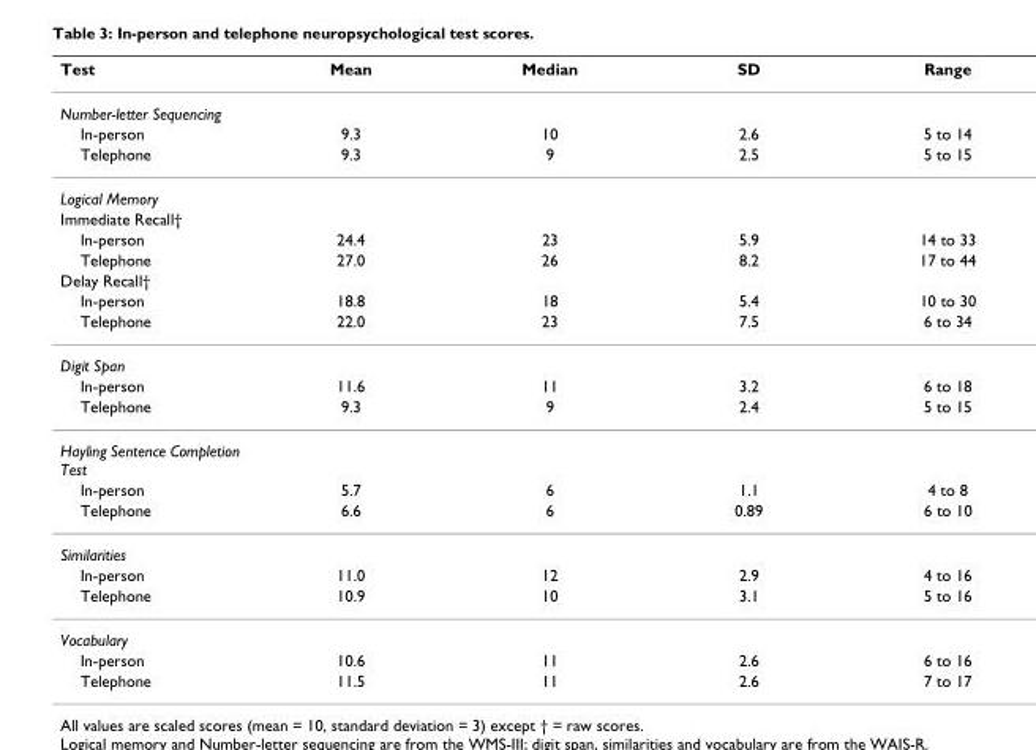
<table><thead><tr><td>Test</td><td>Mean</td><td>Median</td><td>SD</td><td>Range</td></tr></thead><tbody><tr><td colspan="5">Number-letter Sequencing</td></tr><tr><td>In-person</td><td>9.3</td><td>10</td><td>2.6</td><td>5 to 14</td></tr><tr><td>Telephone</td><td>9.3</td><td>9</td><td>2.5</td><td>5 to 15</td></tr><tr><td colspan="5">Logical Memory</td></tr><tr><td colspan="5">Immediate Recall†</td></tr><tr><td>In-person</td><td>24.4</td><td>23</td><td>5.9</td><td>14 to 33</td></tr><tr><td>Telephone</td><td>27.0</td><td>26</td><td>8.2</td><td>17 to 44</td></tr><tr><td colspan="5">Delay Recall†</td></tr><tr><td>In-person</td><td>18.8</td><td>18</td><td>5.4</td><td>10 to 30</td></tr><tr><td>Telephone</td><td>22.0</td><td>23</td><td>7.5</td><td>6 to 34</td></tr><tr><td colspan="5">Digit Span</td></tr><tr><td>In-person</td><td>11.6</td><td>11</td><td>3.2</td><td>6 to 18</td></tr><tr><td>Telephone</td><td>9.3</td><td>9</td><td>2.4</td><td>5 to 15</td></tr><tr><td colspan="5">Hayling Sentence Completion Test</td></tr><tr><td>In-person</td><td>5.7</td><td>6</td><td>1.1</td><td>4 to 8</td></tr><tr><td>Telephone</td><td>6.6</td><td>6</td><td>0.89</td><td>6 to 10</td></tr><tr><td colspan="5">Similarities</td></tr><tr><td>In-person</td><td>11.0</td><td>12</td><td>2.9</td><td>4 to 16</td></tr><tr><td>Telephone</td><td>10.9</td><td>10</td><td>3.1</td><td>5 to 16</td></tr><tr><td colspan="5">Vocabulary</td></tr><tr><td>In-person</td><td>10.6</td><td>11</td><td>2.6</td><td>6 to 16</td></tr><tr><td>Telephone</td><td>11.5</td><td>11</td><td>2.6</td><td>7 to 17</td></tr></tbody></table>